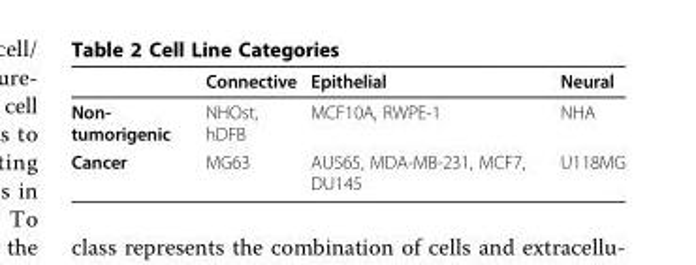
<table><thead><tr><td></td><td>Connective</td><td>Epithelial</td><td>Neural</td></tr></thead><tbody><tr><td>Non- tumorigenic</td><td>NHOst, hDFB</td><td>MCF10A, RWPE-1</td><td>NHA</td></tr><tr><td>Cancer</td><td>MG63</td><td>AU565, MDA-MB-231, MCF7, DU145</td><td>U118MG</td></tr></tbody></table>